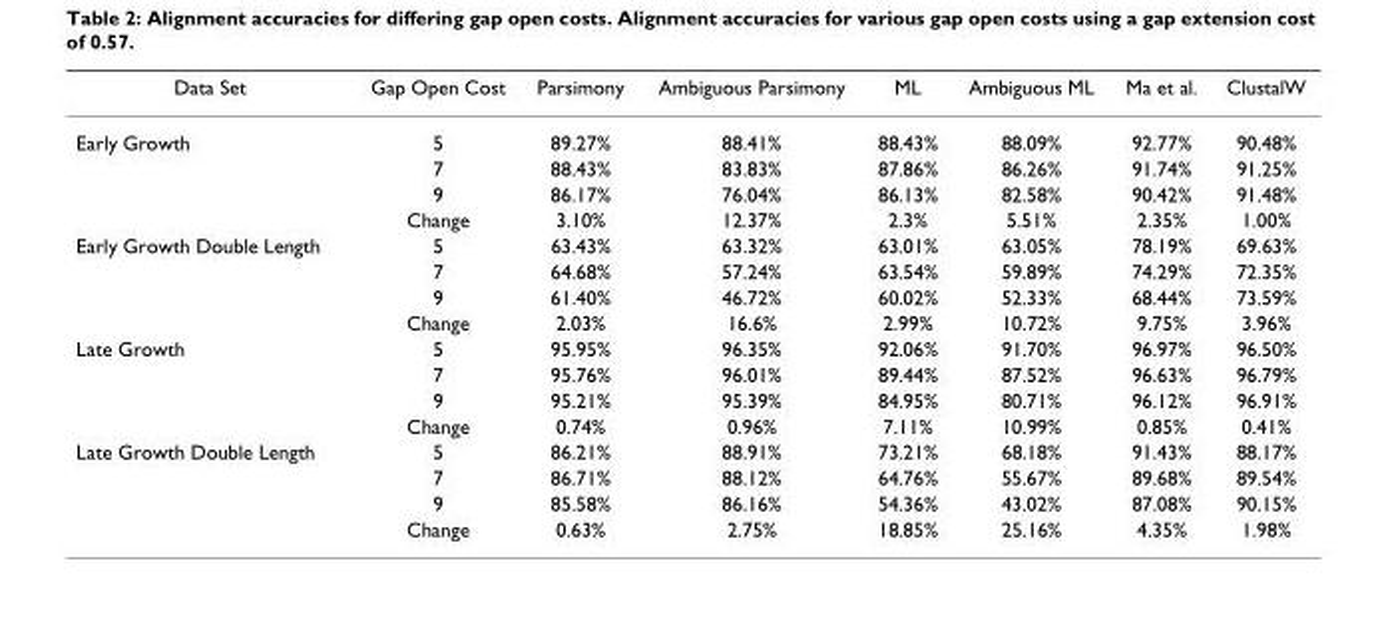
<table><thead><tr><td>Data Set</td><td>Gap Open Cost</td><td>Parsimony</td><td>Ambiguous Parsimony</td><td>ML</td><td>Ambiguous ML</td><td>Ma et al.</td><td>ClustalW</td></tr></thead><tbody><tr><td rowspan="4">Early Growth</td><td>5</td><td>89.27%</td><td>88.41%</td><td>88.43%</td><td>88.09%</td><td>92.77%</td><td>90.48%</td></tr><tr><td>7</td><td>88.43%</td><td>83.83%</td><td>87.86%</td><td>86.26%</td><td>91.74%</td><td>91.25%</td></tr><tr><td>9</td><td>86.17%</td><td>76.04%</td><td>86.13%</td><td>82.58%</td><td>90.42%</td><td>91.48%</td></tr><tr><td>Change</td><td>3.10%</td><td>12.37%</td><td>2.3%</td><td>5.51%</td><td>2.35%</td><td>1.00%</td></tr><tr><td rowspan="4">Early Growth Double Length</td><td>5</td><td>63.43%</td><td>63.32%</td><td>63.01%</td><td>63.05%</td><td>78.19%</td><td>69.63%</td></tr><tr><td>7</td><td>64.68%</td><td>57.24%</td><td>63.54%</td><td>59.89%</td><td>74.29%</td><td>72.35%</td></tr><tr><td>9</td><td>61.40%</td><td>46.72%</td><td>60.02%</td><td>52.33%</td><td>68.44%</td><td>73.59%</td></tr><tr><td>Change</td><td>2.03%</td><td>16.6%</td><td>2.99%</td><td>10.72%</td><td>9.75%</td><td>3.96%</td></tr><tr><td rowspan="4">Late Growth</td><td>5</td><td>95.95%</td><td>96.35%</td><td>92.06%</td><td>91.70%</td><td>96.97%</td><td>96.50%</td></tr><tr><td>7</td><td>95.76%</td><td>96.01%</td><td>89.44%</td><td>87.52%</td><td>96.63%</td><td>96.79%</td></tr><tr><td>9</td><td>95.21%</td><td>95.39%</td><td>84.95%</td><td>80.71%</td><td>96.12%</td><td>96.91%</td></tr><tr><td>Change</td><td>0.74%</td><td>0.96%</td><td>7.11%</td><td>10.99%</td><td>0.85%</td><td>0.41%</td></tr><tr><td rowspan="4">Late Growth Double Length</td><td>5</td><td>86.21%</td><td>88.91%</td><td>73.21%</td><td>68.18%</td><td>91.43%</td><td>88.17%</td></tr><tr><td>7</td><td>86.71%</td><td>88.12%</td><td>64.76%</td><td>55.67%</td><td>89.68%</td><td>89.54%</td></tr><tr><td>9</td><td>85.58%</td><td>86.16%</td><td>54.36%</td><td>43.02%</td><td>87.08%</td><td>90.15%</td></tr><tr><td>Change</td><td>0.63%</td><td>2.75%</td><td>18.85%</td><td>25.16%</td><td>4.35%</td><td>1.98%</td></tr></tbody></table>